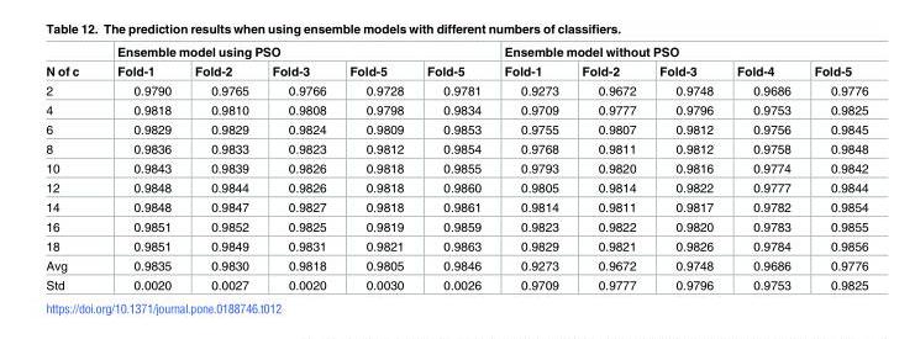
<table><thead><tr><td rowspan="2">N of c</td><td colspan="5">Ensemble model using PSO</td><td colspan="5">Ensemble model without PSO</td></tr><tr><td>Fold-1</td><td>Fold-2</td><td>Fold-3</td><td>Fold-5</td><td>Fold-5</td><td>Fold-1</td><td>Fold-2</td><td>Fold-3</td><td>Fold-4</td><td>Fold-5</td></tr></thead><tbody><tr><td>2</td><td>0.9790</td><td>0.9765</td><td>0.9766</td><td>0.9728</td><td>0.9781</td><td>0.9273</td><td>0.9672</td><td>0.9748</td><td>0.9686</td><td>0.9776</td></tr><tr><td>4</td><td>0.9818</td><td>0.9810</td><td>0.9808</td><td>0.9798</td><td>0.9834</td><td>0.9709</td><td>0.9777</td><td>0.9796</td><td>0.9753</td><td>0.9825</td></tr><tr><td>6</td><td>0.9829</td><td>0.9829</td><td>0.9824</td><td>0.9809</td><td>0.9853</td><td>0.9755</td><td>0.9807</td><td>0.9812</td><td>0.9756</td><td>0.9845</td></tr><tr><td>8</td><td>0.9836</td><td>0.9833</td><td>0.9823</td><td>0.9812</td><td>0.9854</td><td>0.9768</td><td>0.9811</td><td>0.9812</td><td>0.9758</td><td>0.9848</td></tr><tr><td>10</td><td>0.9843</td><td>0.9839</td><td>0.9826</td><td>0.9818</td><td>0.9855</td><td>0.9793</td><td>0.9820</td><td>0.9816</td><td>0.9774</td><td>0.9842</td></tr><tr><td>12</td><td>0.9848</td><td>0.9844</td><td>0.9826</td><td>0.9818</td><td>0.9860</td><td>0.9805</td><td>0.9814</td><td>0.9822</td><td>0.9777</td><td>0.9844</td></tr><tr><td>14</td><td>0.9848</td><td>0.9847</td><td>0.9827</td><td>0.9818</td><td>0.9861</td><td>0.9814</td><td>0.9811</td><td>0.9817</td><td>0.9782</td><td>0.9854</td></tr><tr><td>16</td><td>0.9851</td><td>0.9852</td><td>0.9825</td><td>0.9819</td><td>0.9859</td><td>0.9823</td><td>0.9822</td><td>0.9820</td><td>0.9783</td><td>0.9855</td></tr><tr><td>18</td><td>0.9851</td><td>0.9849</td><td>0.9831</td><td>0.9821</td><td>0.9863</td><td>0.9829</td><td>0.9821</td><td>0.9826</td><td>0.9784</td><td>0.9856</td></tr><tr><td>Avg</td><td>0.9835</td><td>0.9830</td><td>0.9818</td><td>0.9805</td><td>0.9846</td><td>0.9273</td><td>0.9672</td><td>0.9748</td><td>0.9686</td><td>0.9776</td></tr><tr><td>Std</td><td>0.0020</td><td>0.0027</td><td>0.0020</td><td>0.0030</td><td>0.0026</td><td>0.9709</td><td>0.9777</td><td>0.9796</td><td>0.9753</td><td>0.9825</td></tr></tbody></table>